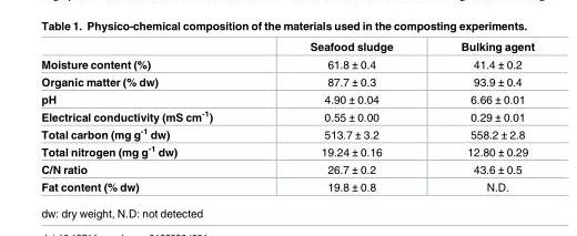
<table><thead><tr><td></td><td>Seafood sludge</td><td>Bulking agent</td></tr></thead><tbody><tr><td>Moisture content (%)</td><td>61.8 ± 0.4</td><td>41.4 ± 0.2</td></tr><tr><td>Organic matter (% dw)</td><td>87.7 ± 0.3</td><td>93.9 ± 0.4</td></tr><tr><td>pH</td><td>4.90 ± 0.04</td><td>6.66 ± 0.01</td></tr><tr><td>Electrical conductivity (mS cm<sup>-1</sup>)</td><td>0.55 ± 0.00</td><td>0.29 ± 0.01</td></tr><tr><td>Total carbon (mg g<sup>-1</sup> dw)</td><td>513.7 ± 3.2</td><td>558.2 ± 2.8</td></tr><tr><td>Total nitrogen (mg g<sup>-1</sup> dw)</td><td>19.24 ± 0.16</td><td>12.80 ± 0.29</td></tr><tr><td>C/N ratio</td><td>26.7 ± 0.2</td><td>43.6 ± 0.5</td></tr><tr><td>Fat content (% dw)</td><td>19.8 ± 0.8</td><td>N.D.</td></tr></tbody></table>